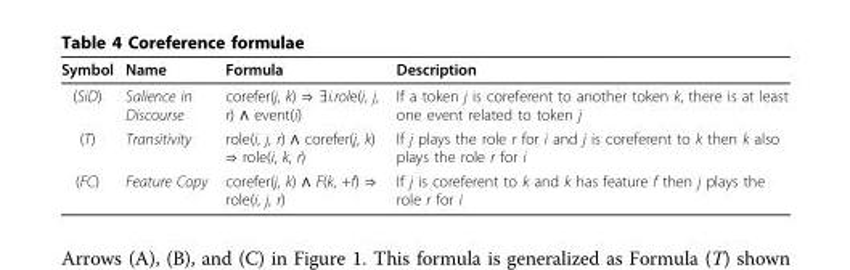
<table><thead><tr><td>Symbol</td><td>Name</td><td>Formula</td><td>Description</td></tr></thead><tbody><tr><td>(SiD)</td><td>Salience in Discourse</td><td>corefer(j, k) ⇒ ∃i.role(i, j, r) ∧ event(i)</td><td>If a token j is coreferent to another token k, there is at least one event related to token j</td></tr><tr><td>(T)</td><td>Transitivity</td><td>role(i, j, r) ∧ corefer(j, k) ⇒ role(i, k, r)</td><td>If j plays the role r for i and j is coreferent to k then k also plays the role r for i</td></tr><tr><td>(FC)</td><td>Feature Copy</td><td>corefer(j, k) ∧ F(k, +f) ⇒ role(i, j, r)</td><td>If j is coreferent to k and k has feature f then j plays the role r for i</td></tr></tbody></table>